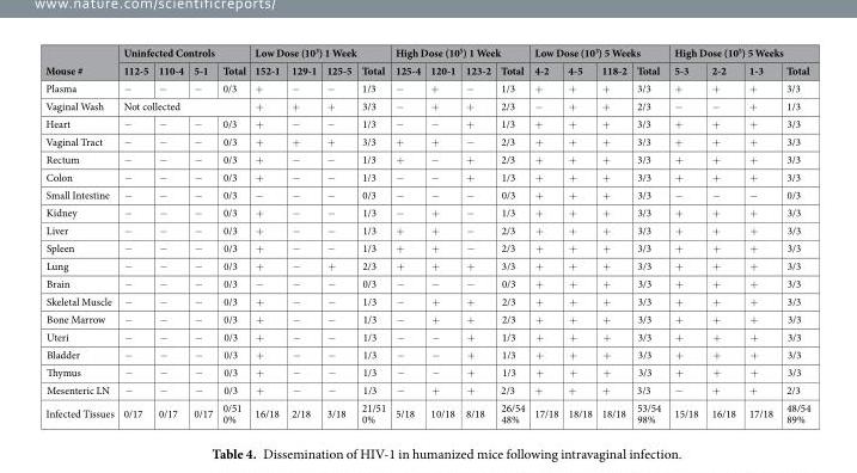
<table><thead><tr><td rowspan="2">Mouse #</td><td colspan="4">Uninfected Controls</td><td colspan="4">Low Dose (10<sup>3</sup>) 1 Week</td><td colspan="4">High Dose (10<sup>5</sup>) 1 Week</td><td colspan="4">Low Dose (10<sup>3</sup>) 5 Weeks</td><td colspan="4">High Dose (10<sup>5</sup>) 5 Weeks</td></tr><tr><td>112-5</td><td>110-4</td><td>5-1</td><td>Total</td><td>152-1</td><td>129-1</td><td>125-5</td><td>Total</td><td>125-4</td><td>120-1</td><td>123-2</td><td>Total</td><td>4-2</td><td>4-5</td><td>118-2</td><td>Total</td><td>5-3</td><td>2-2</td><td>1-3</td><td>Total</td></tr></thead><tbody><tr><td>Plasma</td><td>−</td><td>−</td><td>−</td><td>0/3</td><td>+</td><td>−</td><td>−</td><td>1/3</td><td>−</td><td>+</td><td>−</td><td>1/3</td><td>+</td><td>+</td><td>+</td><td>3/3</td><td>+</td><td>+</td><td>+</td><td>3/3</td></tr><tr><td>Vaginal Wash</td><td colspan="4">Not collected</td><td>+</td><td>+</td><td>+</td><td>3/3</td><td>−</td><td>+</td><td>+</td><td>2/3</td><td>−</td><td>+</td><td>+</td><td>2/3</td><td>−</td><td>−</td><td>+</td><td>1/3</td></tr><tr><td>Heart</td><td>−</td><td>−</td><td>−</td><td>0/3</td><td>+</td><td>−</td><td>−</td><td>1/3</td><td>−</td><td>−</td><td>+</td><td>1/3</td><td>+</td><td>+</td><td>+</td><td>3/3</td><td>+</td><td>+</td><td>+</td><td>3/3</td></tr><tr><td>Vaginal Tract</td><td>−</td><td>−</td><td>−</td><td>0/3</td><td>+</td><td>+</td><td>+</td><td>3/3</td><td>+</td><td>+</td><td>−</td><td>2/3</td><td>+</td><td>+</td><td>+</td><td>3/3</td><td>+</td><td>+</td><td>+</td><td>3/3</td></tr><tr><td>Rectum</td><td>−</td><td>−</td><td>−</td><td>0/3</td><td>+</td><td>−</td><td>−</td><td>1/3</td><td>+</td><td>−</td><td>+</td><td>2/3</td><td>+</td><td>+</td><td>+</td><td>3/3</td><td>+</td><td>+</td><td>+</td><td>3/3</td></tr><tr><td>Colon</td><td>−</td><td>−</td><td>−</td><td>0/3</td><td>+</td><td>−</td><td>−</td><td>1/3</td><td>−</td><td>−</td><td>+</td><td>1/3</td><td>+</td><td>+</td><td>+</td><td>3/3</td><td>+</td><td>+</td><td>+</td><td>3/3</td></tr><tr><td>Small Intestine</td><td>−</td><td>−</td><td>−</td><td>0/3</td><td>−</td><td>−</td><td>−</td><td>0/3</td><td>−</td><td>−</td><td>−</td><td>0/3</td><td>+</td><td>+</td><td>+</td><td>3/3</td><td>−</td><td>−</td><td>−</td><td>0/3</td></tr><tr><td>Kidney</td><td>−</td><td>−</td><td>−</td><td>0/3</td><td>+</td><td>−</td><td>−</td><td>1/3</td><td>−</td><td>+</td><td>−</td><td>1/3</td><td>+</td><td>+</td><td>+</td><td>3/3</td><td>+</td><td>+</td><td>+</td><td>3/3</td></tr><tr><td>Liver</td><td>−</td><td>−</td><td>−</td><td>0/3</td><td>+</td><td>−</td><td>−</td><td>1/3</td><td>+</td><td>+</td><td>−</td><td>2/3</td><td>+</td><td>+</td><td>+</td><td>3/3</td><td>+</td><td>+</td><td>+</td><td>3/3</td></tr><tr><td>Spleen</td><td>−</td><td>−</td><td>−</td><td>0/3</td><td>+</td><td>−</td><td>−</td><td>1/3</td><td>+</td><td>+</td><td>−</td><td>2/3</td><td>+</td><td>+</td><td>+</td><td>3/3</td><td>+</td><td>+</td><td>+</td><td>3/3</td></tr><tr><td>Lung</td><td>−</td><td>−</td><td>−</td><td>0/3</td><td>+</td><td>−</td><td>+</td><td>2/3</td><td>+</td><td>+</td><td>+</td><td>3/3</td><td>+</td><td>+</td><td>+</td><td>3/3</td><td>+</td><td>+</td><td>+</td><td>3/3</td></tr><tr><td>Brain</td><td>−</td><td>−</td><td>−</td><td>0/3</td><td>−</td><td>−</td><td>−</td><td>0/3</td><td>−</td><td>−</td><td>−</td><td>0/3</td><td>+</td><td>+</td><td>+</td><td>3/3</td><td>+</td><td>+</td><td>+</td><td>3/3</td></tr><tr><td>Skeletal Muscle</td><td>−</td><td>−</td><td>−</td><td>0/3</td><td>+</td><td>−</td><td>−</td><td>1/3</td><td>−</td><td>+</td><td>+</td><td>2/3</td><td>+</td><td>+</td><td>+</td><td>3/3</td><td>+</td><td>+</td><td>+</td><td>3/3</td></tr><tr><td>Bone Marrow</td><td>−</td><td>−</td><td>−</td><td>0/3</td><td>+</td><td>−</td><td>−</td><td>1/3</td><td>−</td><td>+</td><td>+</td><td>2/3</td><td>+</td><td>+</td><td>+</td><td>3/3</td><td>+</td><td>+</td><td>+</td><td>3/3</td></tr><tr><td>Uteri</td><td>−</td><td>−</td><td>−</td><td>0/3</td><td>+</td><td>−</td><td>−</td><td>1/3</td><td>−</td><td>−</td><td>+</td><td>1/3</td><td>+</td><td>+</td><td>+</td><td>3/3</td><td>+</td><td>+</td><td>+</td><td>3/3</td></tr><tr><td>Bladder</td><td>−</td><td>−</td><td>−</td><td>0/3</td><td>+</td><td>−</td><td>−</td><td>1/3</td><td>−</td><td>−</td><td>+</td><td>1/3</td><td>+</td><td>+</td><td>+</td><td>3/3</td><td>+</td><td>+</td><td>+</td><td>3/3</td></tr><tr><td>Thymus</td><td>−</td><td>−</td><td>−</td><td>0/3</td><td>+</td><td>−</td><td>−</td><td>1/3</td><td>−</td><td>−</td><td>+</td><td>1/3</td><td>+</td><td>+</td><td>+</td><td>3/3</td><td>+</td><td>+</td><td>+</td><td>3/3</td></tr><tr><td>Mesenteric LN</td><td>−</td><td>−</td><td>−</td><td>0/3</td><td>+</td><td>−</td><td>−</td><td>1/3</td><td>−</td><td>+</td><td>+</td><td>2/3</td><td>+</td><td>+</td><td>+</td><td>3/3</td><td>−</td><td>+</td><td>+</td><td>2/3</td></tr><tr><td>Infected Tissues</td><td>0/17</td><td>0/17</td><td>0/17</td><td>0/51 0%</td><td>16/18</td><td>2/18</td><td>3/18</td><td>21/51 0%</td><td>5/18</td><td>10/18</td><td>8/18</td><td>26/54 48%</td><td>17/18</td><td>18/18</td><td>18/18</td><td>53/54 98%</td><td>15/18</td><td>16/18</td><td>17/18</td><td>48/54 89%</td></tr></tbody></table>